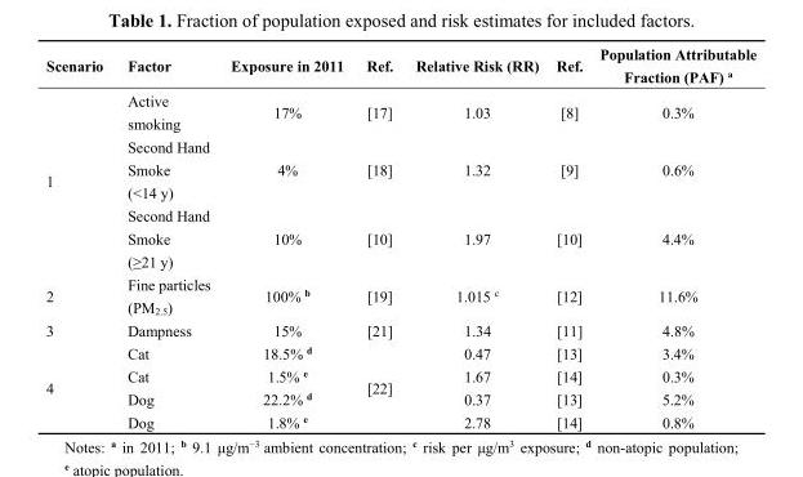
<table><thead><tr><td>Scenario</td><td>Factor</td><td>Exposure in 2011</td><td>Ref.</td><td>Relative Risk (RR)</td><td>Ref.</td><td>Population Attributable Fraction (PAF) <sup>a</sup></td></tr></thead><tbody><tr><td rowspan="3">1</td><td>Active smoking</td><td>17%</td><td>[17]</td><td>1.03</td><td>[8]</td><td>0.3%</td></tr><tr><td>Second Hand Smoke (&lt;14 y)</td><td>4%</td><td>[18]</td><td>1.32</td><td>[9]</td><td>0.6%</td></tr><tr><td>Second Hand Smoke (≥21 y)</td><td>10%</td><td>[10]</td><td>1.97</td><td>[10]</td><td>4.4%</td></tr><tr><td>2</td><td>Fine particles (PM<sub>2.5</sub>)</td><td>100% <sup>b</sup></td><td>[19]</td><td>1.015 <sup>c</sup></td><td>[12]</td><td>11.6%</td></tr><tr><td>3</td><td>Dampness</td><td>15%</td><td>[21]</td><td>1.34</td><td>[11]</td><td>4.8%</td></tr><tr><td rowspan="4">4</td><td>Cat</td><td>18.5% <sup>d</sup></td><td rowspan="4">[22]</td><td>0.47</td><td>[13]</td><td>3.4%</td></tr><tr><td>Cat</td><td>1.5% <sup>e</sup></td><td>1.67</td><td>[14]</td><td>0.3%</td></tr><tr><td>Dog</td><td>22.2% <sup>d</sup></td><td>0.37</td><td>[13]</td><td>5.2%</td></tr><tr><td>Dog</td><td>1.8% <sup>e</sup></td><td>2.78</td><td>[14]</td><td>0.8%</td></tr></tbody></table>